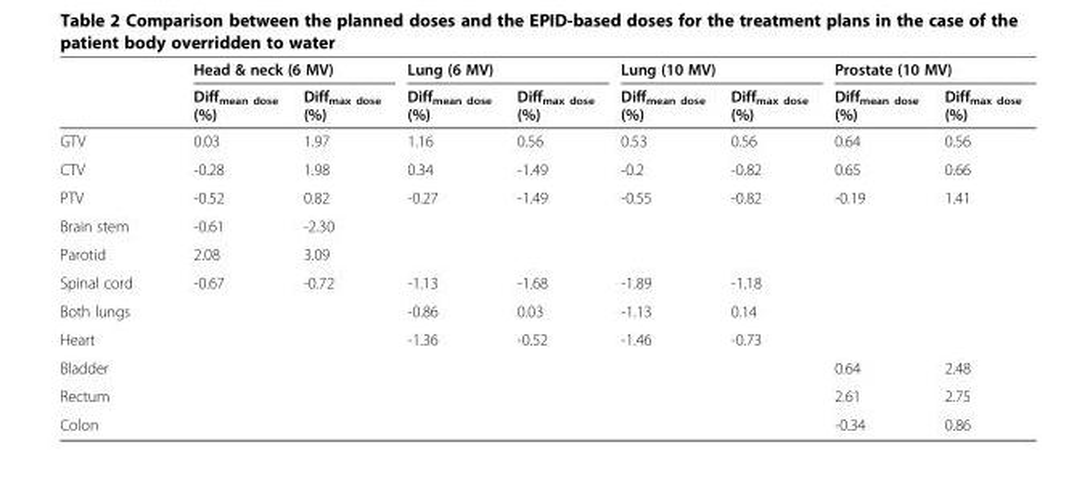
<table><thead><tr><td rowspan="2"></td><td colspan="2">Head &amp; neck (6 MV)</td><td colspan="2">Lung (6 MV)</td><td colspan="2">Lung (10 MV)</td><td colspan="2">Prostate (10 MV)</td></tr><tr><td>Diff<sub>mean dose</sub> (%)</td><td>Diff<sub>max dose</sub> (%)</td><td>Diff<sub>mean dose</sub> (%)</td><td>Diff<sub>max dose</sub> (%)</td><td>Diff<sub>mean dose</sub> (%)</td><td>Diff<sub>max dose</sub> (%)</td><td>Diff<sub>mean dose</sub> (%)</td><td>Diff<sub>max dose</sub> (%)</td></tr></thead><tbody><tr><td>GTV</td><td>0.03</td><td>1.97</td><td>1.16</td><td>0.56</td><td>0.53</td><td>0.56</td><td>0.64</td><td>0.56</td></tr><tr><td>CTV</td><td>-0.28</td><td>1.98</td><td>0.34</td><td>-1.49</td><td>-0.2</td><td>-0.82</td><td>0.65</td><td>0.66</td></tr><tr><td>PTV</td><td>-0.52</td><td>0.82</td><td>-0.27</td><td>-1.49</td><td>-0.55</td><td>-0.82</td><td>-0.19</td><td>1.41</td></tr><tr><td>Brain stem</td><td>-0.61</td><td>-2.30</td><td></td><td></td><td></td><td></td><td></td><td></td></tr><tr><td>Parotid</td><td>2.08</td><td>3.09</td><td></td><td></td><td></td><td></td><td></td><td></td></tr><tr><td>Spinal cord</td><td>-0.67</td><td>-0.72</td><td>-1.13</td><td>-1.68</td><td>-1.89</td><td>-1.18</td><td></td><td></td></tr><tr><td>Both lungs</td><td></td><td></td><td>-0.86</td><td>0.03</td><td>-1.13</td><td>0.14</td><td></td><td></td></tr><tr><td>Heart</td><td></td><td></td><td>-1.36</td><td>-0.52</td><td>-1.46</td><td>-0.73</td><td></td><td></td></tr><tr><td>Bladder</td><td></td><td></td><td></td><td></td><td></td><td></td><td>0.64</td><td>2.48</td></tr><tr><td>Rectum</td><td></td><td></td><td></td><td></td><td></td><td></td><td>2.61</td><td>2.75</td></tr><tr><td>Colon</td><td></td><td></td><td></td><td></td><td></td><td></td><td>-0.34</td><td>0.86</td></tr></tbody></table>